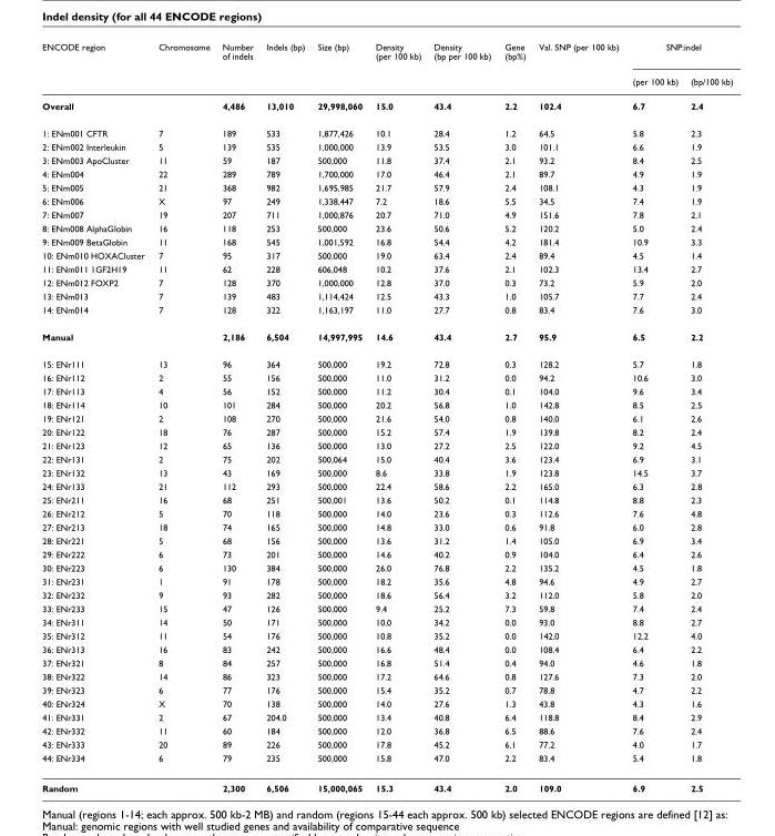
<table><thead><tr><td rowspan="2">ENCODE region</td><td rowspan="2">Chromosome</td><td rowspan="2">Number of indels</td><td rowspan="2">Indels (bp)</td><td rowspan="2">Size (bp)</td><td rowspan="2">Density (per 100 kb)</td><td rowspan="2">Density (bp per 100 kb)</td><td rowspan="2">Gene (bp%)</td><td rowspan="2">Val. SNP (per 100 kb)</td><td colspan="2">SNP:indel</td></tr><tr><td>(per 100 kb)</td><td>(bp/100 kb)</td></tr></thead><tbody><tr><td>Overall</td><td></td><td>4,486</td><td>13,010</td><td>29,998,060</td><td>15.0</td><td>43.4</td><td>2.2</td><td>102.4</td><td>6.7</td><td>2.4</td></tr><tr><td>1: ENm001 CFTR</td><td>7</td><td>189</td><td>533</td><td>1,877,426</td><td>10.1</td><td>28.4</td><td>1.2</td><td>64.5</td><td>5.8</td><td>2.3</td></tr><tr><td>2: ENm002 Interleukin</td><td>5</td><td>139</td><td>535</td><td>1,000,000</td><td>13.9</td><td>53.5</td><td>3.0</td><td>101.1</td><td>6.6</td><td>1.9</td></tr><tr><td>3: ENm003 ApoCluster</td><td>11</td><td>59</td><td>187</td><td>500,000</td><td>11.8</td><td>37.4</td><td>2.1</td><td>93.2</td><td>8.4</td><td>2.5</td></tr><tr><td>4: ENm004</td><td>22</td><td>289</td><td>789</td><td>1,700,000</td><td>17.0</td><td>46.4</td><td>2.1</td><td>89.7</td><td>4.9</td><td>1.9</td></tr><tr><td>5: ENm005</td><td>21</td><td>368</td><td>982</td><td>1,695,985</td><td>21.7</td><td>57.9</td><td>2.4</td><td>108.1</td><td>4.3</td><td>1.9</td></tr><tr><td>6: ENm006</td><td>X</td><td>97</td><td>249</td><td>1,338,447</td><td>7.2</td><td>18.6</td><td>5.5</td><td>34.5</td><td>7.4</td><td>1.9</td></tr><tr><td>7: ENm007</td><td>19</td><td>207</td><td>711</td><td>1,000,876</td><td>20.7</td><td>71.0</td><td>4.9</td><td>151.6</td><td>7.8</td><td>2.1</td></tr><tr><td>8: ENm008 AlphaGlobin</td><td>16</td><td>118</td><td>253</td><td>500,000</td><td>23.6</td><td>50.6</td><td>5.2</td><td>120.2</td><td>5.0</td><td>2.4</td></tr><tr><td>9: ENm009 BetaGlobin</td><td>11</td><td>168</td><td>545</td><td>1,001,592</td><td>16.8</td><td>54.4</td><td>4.2</td><td>181.4</td><td>10.9</td><td>3.3</td></tr><tr><td>10: ENm010 HOXACluster</td><td>7</td><td>95</td><td>317</td><td>500,000</td><td>19.0</td><td>63.4</td><td>2.4</td><td>89.4</td><td>4.5</td><td>1.4</td></tr><tr><td>11: ENm011 1GF2H19</td><td>11</td><td>62</td><td>228</td><td>606,048</td><td>10.2</td><td>37.6</td><td>2.1</td><td>102.3</td><td>13.4</td><td>2.7</td></tr><tr><td>12: ENm012 FOXP2</td><td>7</td><td>128</td><td>370</td><td>1,000,000</td><td>12.8</td><td>37.0</td><td>0.3</td><td>73.2</td><td>5.9</td><td>2.0</td></tr><tr><td>13: ENm013</td><td>7</td><td>139</td><td>483</td><td>1,114,424</td><td>12.5</td><td>43.3</td><td>1.0</td><td>105.7</td><td>7.7</td><td>2.4</td></tr><tr><td>14: ENm014</td><td>7</td><td>128</td><td>322</td><td>1,163,197</td><td>11.0</td><td>27.7</td><td>0.8</td><td>83.4</td><td>7.6</td><td>3.0</td></tr><tr><td>Manual</td><td></td><td>2,186</td><td>6,504</td><td>14,997,995</td><td>14.6</td><td>43.4</td><td>2.7</td><td>95.9</td><td>6.5</td><td>2.2</td></tr><tr><td>15: ENr111</td><td>13</td><td>96</td><td>364</td><td>500,000</td><td>19.2</td><td>72.8</td><td>0.3</td><td>128.2</td><td>5.7</td><td>1.8</td></tr><tr><td>16: ENr112</td><td>2</td><td>55</td><td>156</td><td>500,000</td><td>11.0</td><td>31.2</td><td>0.0</td><td>94.2</td><td>10.6</td><td>3.0</td></tr><tr><td>17: ENr113</td><td>4</td><td>56</td><td>152</td><td>500,000</td><td>11.2</td><td>30.4</td><td>0.1</td><td>104.0</td><td>9.6</td><td>3.4</td></tr><tr><td>18: ENr114</td><td>10</td><td>101</td><td>284</td><td>500,000</td><td>20.2</td><td>56.8</td><td>1.0</td><td>142.8</td><td>8.5</td><td>2.5</td></tr><tr><td>19: ENr121</td><td>2</td><td>108</td><td>270</td><td>500,000</td><td>21.6</td><td>54.0</td><td>0.8</td><td>140.0</td><td>6.1</td><td>2.6</td></tr><tr><td>20: ENr122</td><td>18</td><td>76</td><td>287</td><td>500,000</td><td>15.2</td><td>57.4</td><td>1.9</td><td>139.8</td><td>8.2</td><td>2.4</td></tr><tr><td>21: ENr123</td><td>12</td><td>65</td><td>136</td><td>500,000</td><td>13.0</td><td>27.2</td><td>2.5</td><td>122.0</td><td>9.2</td><td>4.5</td></tr><tr><td>22: ENr131</td><td>2</td><td>75</td><td>202</td><td>500,064</td><td>15.0</td><td>40.4</td><td>3.6</td><td>123.4</td><td>6.9</td><td>3.1</td></tr><tr><td>23: ENr132</td><td>13</td><td>43</td><td>169</td><td>500,000</td><td>8.6</td><td>33.8</td><td>1.9</td><td>123.8</td><td>14.5</td><td>3.7</td></tr><tr><td>24: ENr133</td><td>21</td><td>112</td><td>293</td><td>500,000</td><td>22.4</td><td>58.6</td><td>2.2</td><td>165.0</td><td>6.3</td><td>2.8</td></tr><tr><td>25: ENr211</td><td>16</td><td>68</td><td>251</td><td>500,001</td><td>13.6</td><td>50.2</td><td>0.1</td><td>114.8</td><td>8.8</td><td>2.3</td></tr><tr><td>26: ENr212</td><td>5</td><td>70</td><td>118</td><td>500,000</td><td>14.0</td><td>23.6</td><td>0.3</td><td>112.6</td><td>7.6</td><td>4.8</td></tr><tr><td>27: ENr213</td><td>18</td><td>74</td><td>165</td><td>500,000</td><td>14.8</td><td>33.0</td><td>0.6</td><td>91.8</td><td>6.0</td><td>2.8</td></tr><tr><td>28: ENr221</td><td>5</td><td>68</td><td>156</td><td>500,000</td><td>13.6</td><td>31.2</td><td>1.4</td><td>105.0</td><td>6.9</td><td>3.4</td></tr><tr><td>29: ENr222</td><td>6</td><td>73</td><td>201</td><td>500,000</td><td>14.6</td><td>40.2</td><td>0.9</td><td>104.0</td><td>6.4</td><td>2.6</td></tr><tr><td>30: ENr223</td><td>6</td><td>130</td><td>384</td><td>500,000</td><td>26.0</td><td>76.8</td><td>2.2</td><td>135.2</td><td>4.5</td><td>1.8</td></tr><tr><td>31: ENr231</td><td>1</td><td>91</td><td>178</td><td>500,000</td><td>18.2</td><td>35.6</td><td>4.8</td><td>94.6</td><td>4.9</td><td>2.7</td></tr><tr><td>32: ENr232</td><td>9</td><td>93</td><td>282</td><td>500,000</td><td>18.6</td><td>56.4</td><td>3.2</td><td>112.0</td><td>5.8</td><td>2.0</td></tr><tr><td>33: ENr233</td><td>15</td><td>47</td><td>126</td><td>500,000</td><td>9.4</td><td>25.2</td><td>7.3</td><td>59.8</td><td>7.4</td><td>2.4</td></tr><tr><td>34: ENr311</td><td>14</td><td>50</td><td>171</td><td>500,000</td><td>10.0</td><td>34.2</td><td>0.0</td><td>93.0</td><td>8.8</td><td>2.7</td></tr><tr><td>35: ENr312</td><td>11</td><td>54</td><td>176</td><td>500,000</td><td>10.8</td><td>35.2</td><td>0.0</td><td>142.0</td><td>12.2</td><td>4.0</td></tr><tr><td>36: ENr313</td><td>16</td><td>83</td><td>242</td><td>500,000</td><td>16.6</td><td>48.4</td><td>0.0</td><td>108.4</td><td>6.4</td><td>2.2</td></tr><tr><td>37: ENr321</td><td>8</td><td>84</td><td>257</td><td>500,000</td><td>16.8</td><td>51.4</td><td>0.4</td><td>94.0</td><td>4.6</td><td>1.8</td></tr><tr><td>38: ENr322</td><td>14</td><td>86</td><td>323</td><td>500,000</td><td>17.2</td><td>64.6</td><td>0.8</td><td>127.6</td><td>7.3</td><td>2.0</td></tr><tr><td>39: ENr323</td><td>6</td><td>77</td><td>176</td><td>500,000</td><td>15.4</td><td>35.2</td><td>0.7</td><td>78.8</td><td>4.7</td><td>2.2</td></tr><tr><td>40: ENr324</td><td>X</td><td>70</td><td>138</td><td>500,000</td><td>14.0</td><td>27.6</td><td>1.3</td><td>43.8</td><td>4.3</td><td>1.6</td></tr><tr><td>41: ENr331</td><td>2</td><td>67</td><td>204.0</td><td>500,000</td><td>13.4</td><td>40.8</td><td>6.4</td><td>118.8</td><td>8.4</td><td>2.9</td></tr><tr><td>42: ENr332</td><td>11</td><td>60</td><td>184</td><td>500,000</td><td>12.0</td><td>36.8</td><td>6.5</td><td>88.6</td><td>7.6</td><td>2.4</td></tr><tr><td>43: ENr333</td><td>20</td><td>89</td><td>226</td><td>500,000</td><td>17.8</td><td>45.2</td><td>6.1</td><td>77.2</td><td>4.0</td><td>1.7</td></tr><tr><td>44: ENr334</td><td>6</td><td>79</td><td>235</td><td>500,000</td><td>15.8</td><td>47.0</td><td>2.2</td><td>83.4</td><td>5.4</td><td>1.8</td></tr><tr><td>Random</td><td></td><td>2,300</td><td>6,506</td><td>15,000,065</td><td>15.3</td><td>43.4</td><td>2.0</td><td>109.0</td><td>6.9</td><td>2.5</td></tr></tbody></table>